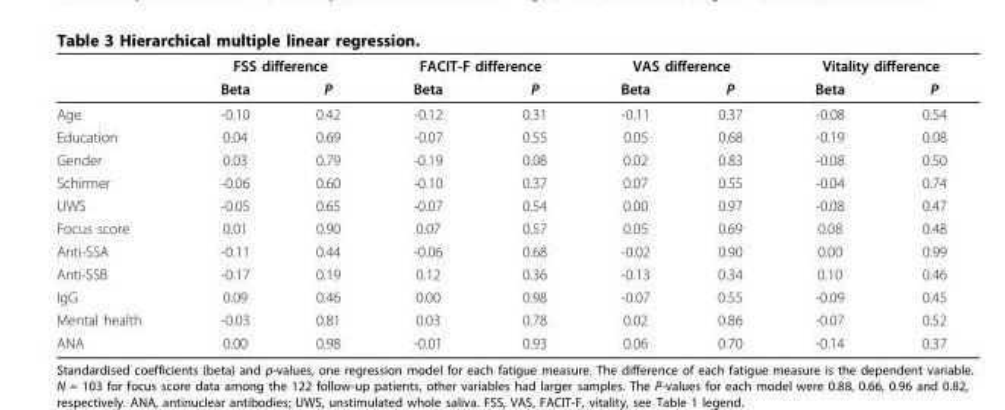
<table><thead><tr><td rowspan="2"></td><td colspan="2">FSS difference</td><td colspan="2">FACIT-F difference</td><td colspan="2">VAS difference</td><td colspan="2">Vitality difference</td></tr><tr><td>Beta</td><td>P</td><td>Beta</td><td>P</td><td>Beta</td><td>P</td><td>Beta</td><td>P</td></tr></thead><tbody><tr><td>Age</td><td>-0.10</td><td>0.42</td><td>-0.12</td><td>0.31</td><td>-0.11</td><td>0.37</td><td>-0.08</td><td>0.54</td></tr><tr><td>Education</td><td>0.04</td><td>0.69</td><td>-0.07</td><td>0.55</td><td>0.05</td><td>0.68</td><td>-0.19</td><td>0.08</td></tr><tr><td>Gender</td><td>0.03</td><td>0.79</td><td>-0.19</td><td>0.08</td><td>0.02</td><td>0.83</td><td>-0.08</td><td>0.50</td></tr><tr><td>Schirmer</td><td>-0.06</td><td>0.60</td><td>-0.10</td><td>0.37</td><td>0.07</td><td>0.55</td><td>-0.04</td><td>0.74</td></tr><tr><td>UWS</td><td>-0.05</td><td>0.65</td><td>-0.07</td><td>0.54</td><td>0.00</td><td>0.97</td><td>-0.08</td><td>0.47</td></tr><tr><td>Focus score</td><td>0.01</td><td>0.90</td><td>0.07</td><td>0.57</td><td>0.05</td><td>0.69</td><td>0.08</td><td>0.48</td></tr><tr><td>Anti-SSA</td><td>-0.11</td><td>0.44</td><td>-0.06</td><td>0.68</td><td>-0.02</td><td>0.90</td><td>0.00</td><td>0.99</td></tr><tr><td>Anti-SSB</td><td>-0.17</td><td>0.19</td><td>0.12</td><td>0.36</td><td>-0.13</td><td>0.34</td><td>0.10</td><td>0.46</td></tr><tr><td>IgG</td><td>0.09</td><td>0.46</td><td>0.00</td><td>0.98</td><td>-0.07</td><td>0.55</td><td>-0.09</td><td>0.45</td></tr><tr><td>Mental health</td><td>-0.03</td><td>0.81</td><td>0.03</td><td>0.78</td><td>0.02</td><td>0.86</td><td>-0.07</td><td>0.52</td></tr><tr><td>ANA</td><td>0.00</td><td>0.98</td><td>-0.01</td><td>0.93</td><td>0.06</td><td>0.70</td><td>-0.14</td><td>0.37</td></tr></tbody></table>